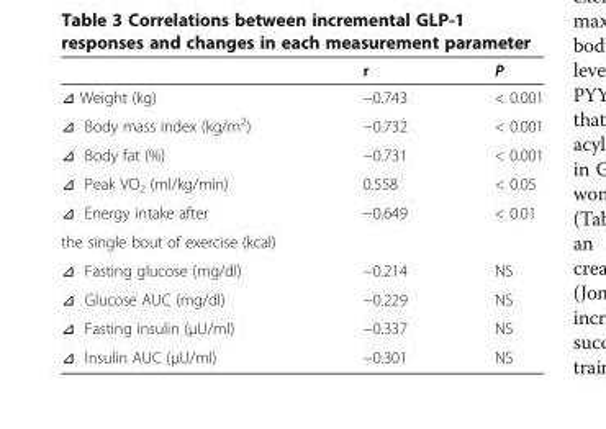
<table><thead><tr><td></td><td>r</td><td>P</td></tr></thead><tbody><tr><td>⊿ Weight (kg)</td><td>−0.743</td><td>&lt; 0.001</td></tr><tr><td>⊿ Body mass index (kg/m<sup>2</sup>)</td><td>−0.732</td><td>&lt; 0.001</td></tr><tr><td>⊿ Body fat (%)</td><td>−0.731</td><td>&lt; 0.001</td></tr><tr><td>⊿ Peak VO<sub>2</sub> (ml/kg/min)</td><td>0.558</td><td>&lt; 0.05</td></tr><tr><td>⊿ Energy intake after</td><td>−0.649</td><td>&lt; 0.01</td></tr><tr><td colspan="3">the single bout of exercise (kcal)</td></tr><tr><td>⊿ Fasting glucose (mg/dl)</td><td>−0.214</td><td>NS</td></tr><tr><td>⊿ Glucose AUC (mg/dl)</td><td>−0.229</td><td>NS</td></tr><tr><td>⊿ Fasting insulin (μU/ml)</td><td>−0.337</td><td>NS</td></tr><tr><td>⊿ Insulin AUC (μU/ml)</td><td>−0.301</td><td>NS</td></tr></tbody></table>